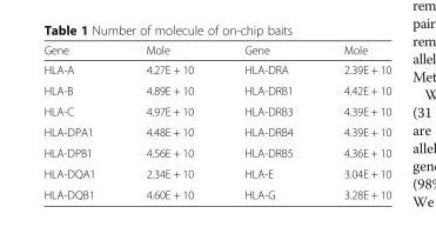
<table><thead><tr><td>Gene</td><td>Mole</td><td>Gene</td><td>Mole</td></tr></thead><tbody><tr><td>HLA-A</td><td>4.27E + 10</td><td>HLA-DRA</td><td>2.39E + 10</td></tr><tr><td>HLA-B</td><td>4.89E + 10</td><td>HLA-DRB1</td><td>4.42E + 10</td></tr><tr><td>HLA-C</td><td>4.97E + 10</td><td>HLA-DRB3</td><td>4.39E + 10</td></tr><tr><td>HLA-DPA1</td><td>4.48E + 10</td><td>HLA-DRB4</td><td>4.39E + 10</td></tr><tr><td>HLA-DPB1</td><td>4.56E + 10</td><td>HLA-DRB5</td><td>4.36E + 10</td></tr><tr><td>HLA-DQA1</td><td>2.34E + 10</td><td>HLA-E</td><td>3.04E + 10</td></tr><tr><td>HLA-DQB1</td><td>4.60E + 10</td><td>HLA-G</td><td>3.28E + 10</td></tr></tbody></table>